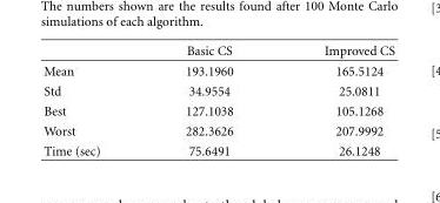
<table><thead><tr><td></td><td>Basic CS</td><td>Improved CS</td></tr></thead><tbody><tr><td>Mean</td><td>193.1960</td><td>165.5124</td></tr><tr><td>Std</td><td>34.9554</td><td>25.0811</td></tr><tr><td>Best</td><td>127.1038</td><td>105.1268</td></tr><tr><td>Worst</td><td>282.3626</td><td>207.9992</td></tr><tr><td>Time (sec)</td><td>75.6491</td><td>26.1248</td></tr></tbody></table>